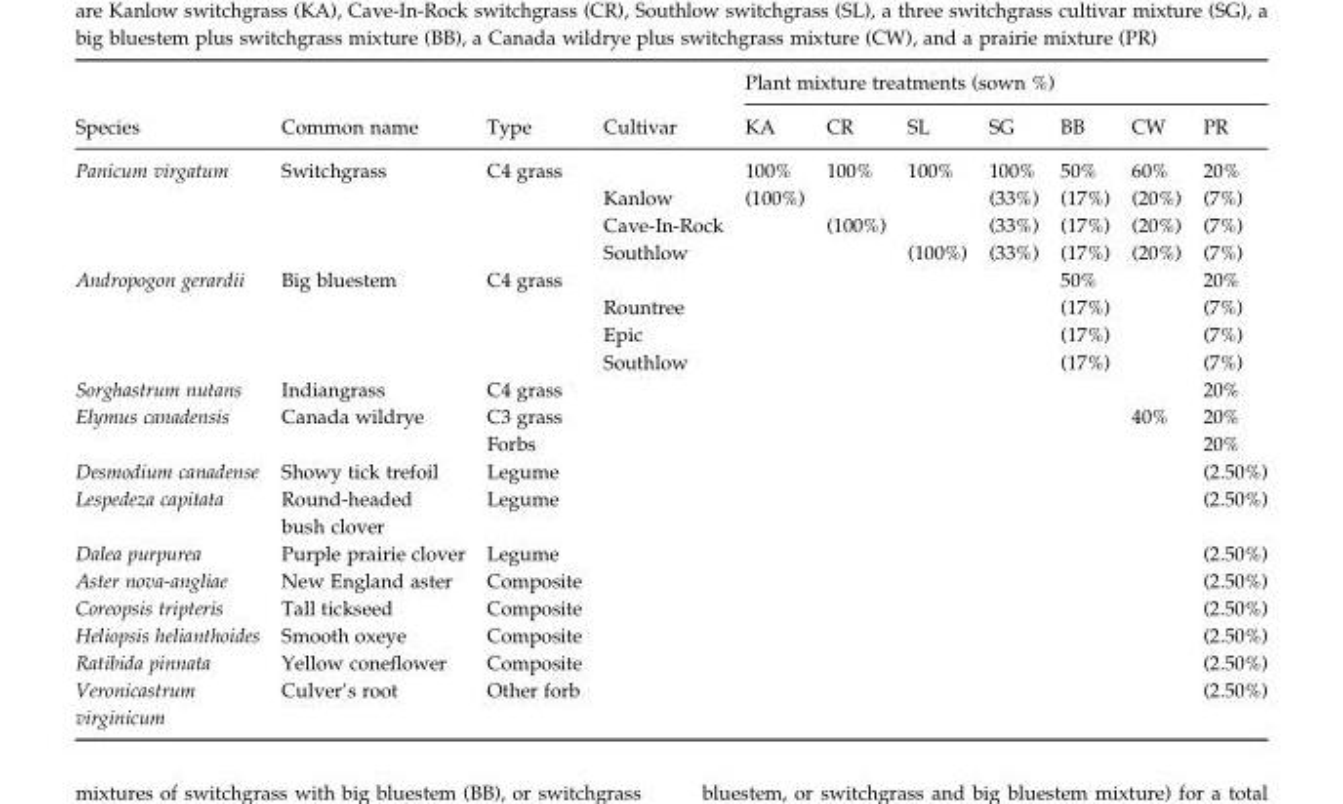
<table><thead><tr><td rowspan="2">Species</td><td rowspan="2">Common name</td><td rowspan="2">Type</td><td rowspan="2">Cultivar</td><td colspan="7">Plant mixture treatments (sown %)</td></tr><tr><td>KA</td><td>CR</td><td>SL</td><td>SG</td><td>BB</td><td>CW</td><td>PR</td></tr></thead><tbody><tr><td rowspan="4">Panicum virgatum</td><td>Switchgrass</td><td>C4 grass</td><td></td><td>100%</td><td>100%</td><td>100%</td><td>100%</td><td>50%</td><td>60%</td><td>20%</td></tr><tr><td></td><td></td><td>Kanlow</td><td>(100%)</td><td></td><td></td><td>(33%)</td><td>(17%)</td><td>(20%)</td><td>(7%)</td></tr><tr><td></td><td></td><td>Cave-In-Rock</td><td></td><td>(100%)</td><td></td><td>(33%)</td><td>(17%)</td><td>(20%)</td><td>(7%)</td></tr><tr><td></td><td></td><td>Southlow</td><td></td><td></td><td>(100%)</td><td>(33%)</td><td>(17%)</td><td>(20%)</td><td>(7%)</td></tr><tr><td rowspan="4">Andropogon gerardii</td><td>Big bluestem</td><td>C4 grass</td><td></td><td></td><td></td><td></td><td></td><td>50%</td><td></td><td>20%</td></tr><tr><td></td><td></td><td>Rountree</td><td></td><td></td><td></td><td></td><td>(17%)</td><td></td><td>(7%)</td></tr><tr><td></td><td></td><td>Epic</td><td></td><td></td><td></td><td></td><td>(17%)</td><td></td><td>(7%)</td></tr><tr><td></td><td></td><td>Southlow</td><td></td><td></td><td></td><td></td><td>(17%)</td><td></td><td>(7%)</td></tr><tr><td>Sorghastrum nutans</td><td>Indiangrass</td><td>C4 grass</td><td></td><td></td><td></td><td></td><td></td><td></td><td></td><td>20%</td></tr><tr><td rowspan="2">Elymus canadensis</td><td>Canada wildrye</td><td>C3 grass</td><td></td><td></td><td></td><td></td><td></td><td></td><td>40%</td><td>20%</td></tr><tr><td></td><td>Forbs</td><td></td><td></td><td></td><td></td><td></td><td></td><td></td><td>20%</td></tr><tr><td>Desmodium canadense</td><td>Showy tick trefoil</td><td>Legume</td><td></td><td></td><td></td><td></td><td></td><td></td><td></td><td>(2.50%)</td></tr><tr><td>Lespedeza capitata</td><td>Round-headed bush clover</td><td>Legume</td><td></td><td></td><td></td><td></td><td></td><td></td><td></td><td>(2.50%)</td></tr><tr><td>Dalea purpurea</td><td>Purple prairie clover</td><td>Legume</td><td></td><td></td><td></td><td></td><td></td><td></td><td></td><td>(2.50%)</td></tr><tr><td>Aster nova-angliae</td><td>New England aster</td><td>Composite</td><td></td><td></td><td></td><td></td><td></td><td></td><td></td><td>(2.50%)</td></tr><tr><td>Coreopsis tripteris</td><td>Tall tickseed</td><td>Composite</td><td></td><td></td><td></td><td></td><td></td><td></td><td></td><td>(2.50%)</td></tr><tr><td>Heliopsis helianthoides</td><td>Smooth oxeye</td><td>Composite</td><td></td><td></td><td></td><td></td><td></td><td></td><td></td><td>(2.50%)</td></tr><tr><td>Ratibida pinnata</td><td>Yellow coneflower</td><td>Composite</td><td></td><td></td><td></td><td></td><td></td><td></td><td></td><td>(2.50%)</td></tr><tr><td>Veronicastrum virginicum</td><td>Culver’s root</td><td>Other forb</td><td></td><td></td><td></td><td></td><td></td><td></td><td></td><td>(2.50%)</td></tr></tbody></table>